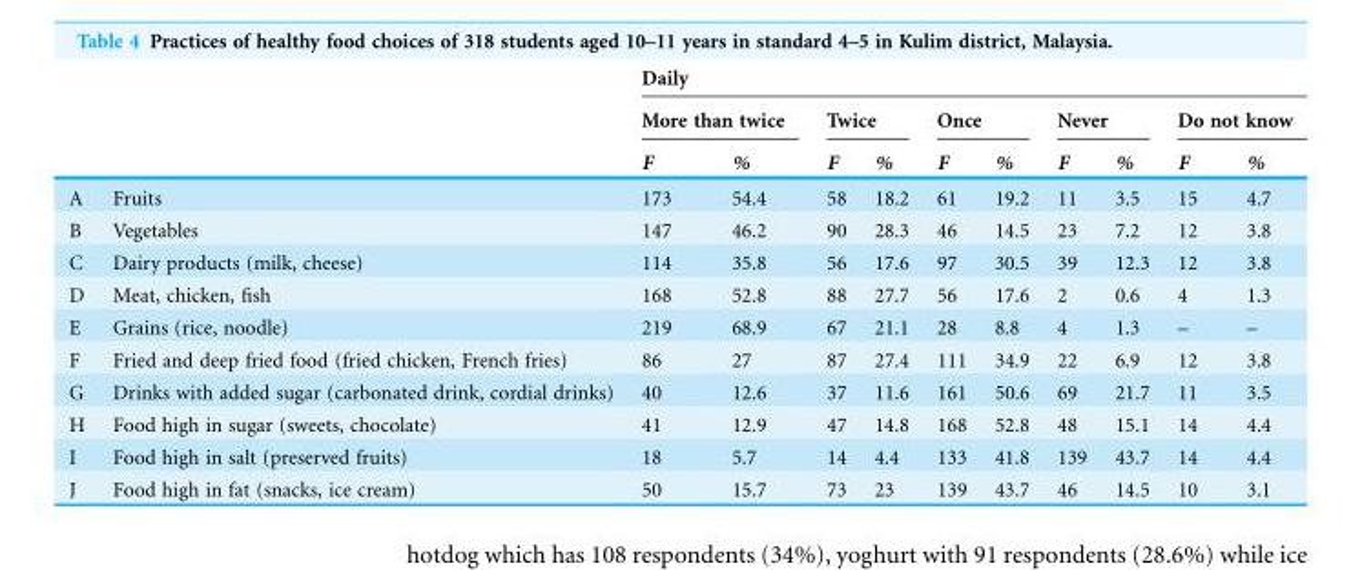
<table><thead><tr><td rowspan="3"></td><td rowspan="3"></td><td colspan="10">Daily</td></tr><tr><td colspan="2">More than twice</td><td colspan="2">Twice</td><td colspan="2">Once</td><td colspan="2">Never</td><td colspan="2">Do not know</td></tr><tr><td>F</td><td>%</td><td>F</td><td>%</td><td>F</td><td>%</td><td>F</td><td>%</td><td>F</td><td>%</td></tr></thead><tbody><tr><td>A</td><td>Fruits</td><td>173</td><td>54.4</td><td>58</td><td>18.2</td><td>61</td><td>19.2</td><td>11</td><td>3.5</td><td>15</td><td>4.7</td></tr><tr><td>B</td><td>Vegetables</td><td>147</td><td>46.2</td><td>90</td><td>28.3</td><td>46</td><td>14.5</td><td>23</td><td>7.2</td><td>12</td><td>3.8</td></tr><tr><td>C</td><td>Dairy products (milk, cheese)</td><td>114</td><td>35.8</td><td>56</td><td>17.6</td><td>97</td><td>30.5</td><td>39</td><td>12.3</td><td>12</td><td>3.8</td></tr><tr><td>D</td><td>Meat, chicken, fish</td><td>168</td><td>52.8</td><td>88</td><td>27.7</td><td>56</td><td>17.6</td><td>2</td><td>0.6</td><td>4</td><td>1.3</td></tr><tr><td>E</td><td>Grains (rice, noodle)</td><td>219</td><td>68.9</td><td>67</td><td>21.1</td><td>28</td><td>8.8</td><td>4</td><td>1.3</td><td>–</td><td>–</td></tr><tr><td>F</td><td>Fried and deep fried food (fried chicken, French fries)</td><td>86</td><td>27</td><td>87</td><td>27.4</td><td>111</td><td>34.9</td><td>22</td><td>6.9</td><td>12</td><td>3.8</td></tr><tr><td>G</td><td>Drinks with added sugar (carbonated drink, cordial drinks)</td><td>40</td><td>12.6</td><td>37</td><td>11.6</td><td>161</td><td>50.6</td><td>69</td><td>21.7</td><td>11</td><td>3.5</td></tr><tr><td>H</td><td>Food high in sugar (sweets, chocolate)</td><td>41</td><td>12.9</td><td>47</td><td>14.8</td><td>168</td><td>52.8</td><td>48</td><td>15.1</td><td>14</td><td>4.4</td></tr><tr><td>I</td><td>Food high in salt (preserved fruits)</td><td>18</td><td>5.7</td><td>14</td><td>4.4</td><td>133</td><td>41.8</td><td>139</td><td>43.7</td><td>14</td><td>4.4</td></tr><tr><td>J</td><td>Food high in fat (snacks, ice cream)</td><td>50</td><td>15.7</td><td>73</td><td>23</td><td>139</td><td>43.7</td><td>46</td><td>14.5</td><td>10</td><td>3.1</td></tr></tbody></table>